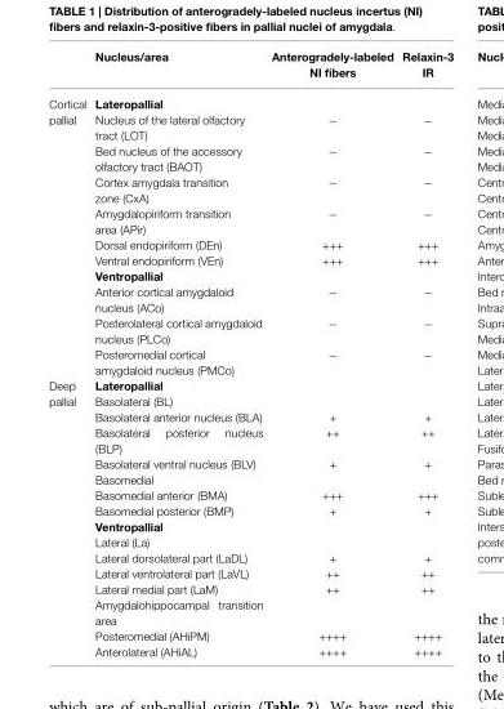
<table><thead><tr><td></td><td>Nucleus/area</td><td>Anterogradely-labeled NI fibers</td><td>Relaxin-3 IR</td></tr></thead><tbody><tr><td rowspan="11">Cortical pallial</td><td>Lateropallial</td><td></td><td></td></tr><tr><td>Nucleus of the lateral olfactory tract (LOT)</td><td>−</td><td>−</td></tr><tr><td>Bed nucleus of the accessory olfactory tract (BAOT)</td><td>−</td><td>−</td></tr><tr><td>Cortex amygdala transition zone (CxA)</td><td>−</td><td>−</td></tr><tr><td>Amygdalopiriform transition area (APir)</td><td>−</td><td>−</td></tr><tr><td>Dorsal endopiriform (DEn)</td><td>+++</td><td>+++</td></tr><tr><td>Ventral endopiriform (VEn)</td><td>+++</td><td>+++</td></tr><tr><td>Ventropallial</td><td></td><td></td></tr><tr><td>Anterior cortical amygdaloid nucleus (ACo)</td><td>−</td><td>−</td></tr><tr><td>Posterolateral cortical amygdaloid nucleus (PLCo)</td><td>−</td><td>−</td></tr><tr><td>Posteromedial cortical amygdaloid nucleus (PMCo)</td><td>−</td><td>−</td></tr><tr><td rowspan="16">Deep pallial</td><td>Lateropallial</td><td></td><td></td></tr><tr><td>Basolateral (BL)</td><td></td><td></td></tr><tr><td>Basolateral anterior nucleus (BLA)</td><td>+</td><td>+</td></tr><tr><td>Basolateral posterior nucleus (BLP)</td><td>++</td><td>++</td></tr><tr><td>Basolateral ventral nucleus (BLV)</td><td>+</td><td>+</td></tr><tr><td>Basomedial</td><td></td><td></td></tr><tr><td>Basomedial anterior (BMA)</td><td>+++</td><td>+++</td></tr><tr><td>Basomedial posterior (BMP)</td><td>+</td><td>+</td></tr><tr><td>Ventropallial</td><td></td><td></td></tr><tr><td>Lateral (La)</td><td></td><td></td></tr><tr><td>Lateral dorsolateral part (LaDL)</td><td>+</td><td>+</td></tr><tr><td>Lateral ventrolateral part (LaVL)</td><td>++</td><td>++</td></tr><tr><td>Lateral medial part (LaM)</td><td>++</td><td>++</td></tr><tr><td>Amygdalohippocampal transition area</td><td></td><td></td></tr><tr><td>Posteromedial (AHiPM)</td><td>++++</td><td>++++</td></tr><tr><td>Anterolateral (AHiAL)</td><td>++++</td><td>++++</td></tr></tbody></table>